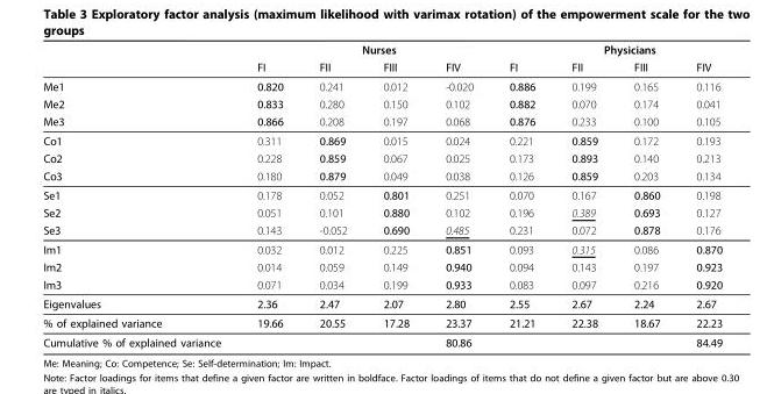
<table><thead><tr><td rowspan="2"></td><td colspan="4">Nurses</td><td colspan="4">Physicians</td></tr><tr><td>FI</td><td>FII</td><td>FIII</td><td>FIV</td><td>FI</td><td>FII</td><td>FIII</td><td>FIV</td></tr></thead><tbody><tr><td>Me1</td><td>0.820</td><td>0.241</td><td>0.012</td><td>-0.020</td><td>0.886</td><td>0.199</td><td>0.165</td><td>0.116</td></tr><tr><td>Me2</td><td>0.833</td><td>0.280</td><td>0.150</td><td>0.102</td><td>0.882</td><td>0.070</td><td>0.174</td><td>0.041</td></tr><tr><td>Me3</td><td>0.866</td><td>0.208</td><td>0.197</td><td>0.068</td><td>0.876</td><td>0.233</td><td>0.100</td><td>0.105</td></tr><tr><td>Co1</td><td>0.311</td><td>0.869</td><td>0.015</td><td>0.024</td><td>0.221</td><td>0.859</td><td>0.172</td><td>0.193</td></tr><tr><td>Co2</td><td>0.228</td><td>0.859</td><td>0.067</td><td>0.025</td><td>0.173</td><td>0.893</td><td>0.140</td><td>0.213</td></tr><tr><td>Co3</td><td>0.180</td><td>0.879</td><td>0.049</td><td>0.038</td><td>0.126</td><td>0.859</td><td>0.203</td><td>0.134</td></tr><tr><td>Se1</td><td>0.178</td><td>0.052</td><td>0.801</td><td>0.251</td><td>0.070</td><td>0.167</td><td>0.860</td><td>0.198</td></tr><tr><td>Se2</td><td>0.051</td><td>0.101</td><td>0.880</td><td>0.102</td><td>0.196</td><td>0.389</td><td>0.693</td><td>0.127</td></tr><tr><td>Se3</td><td>0.143</td><td>-0.052</td><td>0.690</td><td>0.485</td><td>0.231</td><td>0.072</td><td>0.878</td><td>0.176</td></tr><tr><td>Im1</td><td>0.032</td><td>0.012</td><td>0.225</td><td>0.851</td><td>0.093</td><td>0.315</td><td>0.086</td><td>0.870</td></tr><tr><td>Im2</td><td>0.014</td><td>0.059</td><td>0.149</td><td>0.940</td><td>0.094</td><td>0.143</td><td>0.197</td><td>0.923</td></tr><tr><td>Im3</td><td>0.071</td><td>0.034</td><td>0.199</td><td>0.933</td><td>0.083</td><td>0.097</td><td>0.216</td><td>0.920</td></tr><tr><td>Eigenvalues</td><td>2.36</td><td>2.47</td><td>2.07</td><td>2.80</td><td>2.55</td><td>2.67</td><td>2.24</td><td>2.67</td></tr><tr><td>% of explained variance</td><td>19.66</td><td>20.55</td><td>17.28</td><td>23.37</td><td>21.21</td><td>22.38</td><td>18.67</td><td>22.23</td></tr><tr><td>Cumulative % of explained variance</td><td></td><td></td><td></td><td>80.86</td><td></td><td></td><td></td><td>84.49</td></tr></tbody></table>